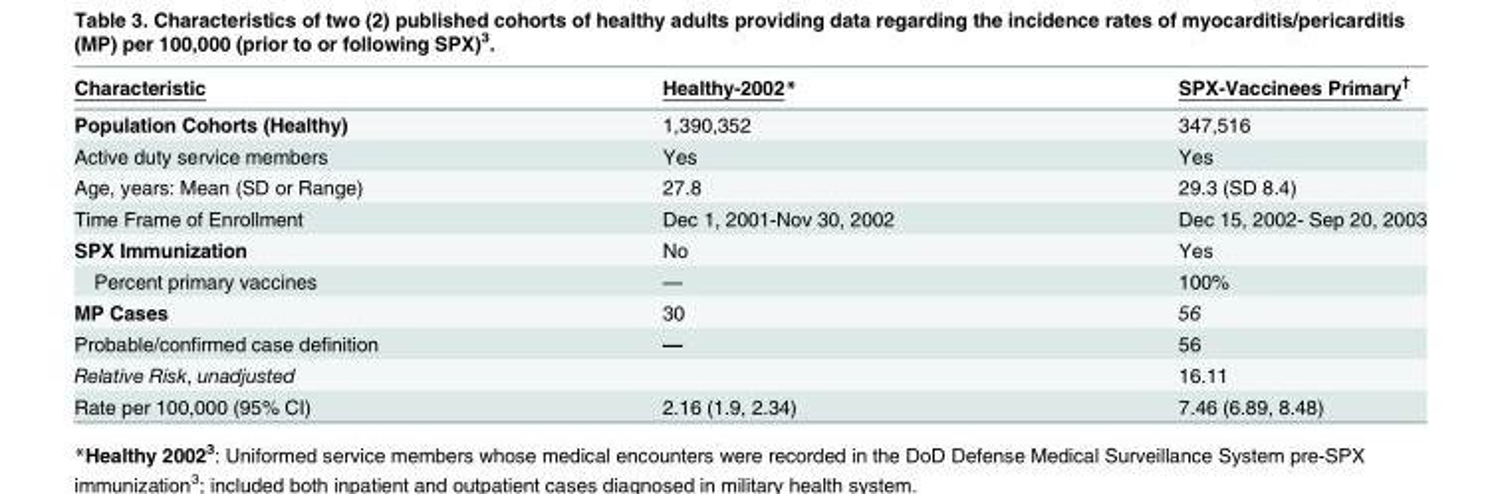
<table><thead><tr><td>Characteristic</td><td>Healthy-2002*</td><td>SPX-Vaccinees Primary<sup>†</sup></td></tr></thead><tbody><tr><td>Population Cohorts (Healthy)</td><td>1,390,352</td><td>347,516</td></tr><tr><td>Active duty service members</td><td>Yes</td><td>Yes</td></tr><tr><td>Age, years: Mean (SD or Range)</td><td>27.8</td><td>29.3 (SD 8.4)</td></tr><tr><td>Time Frame of Enrollment</td><td>Dec 1, 2001-Nov 30, 2002</td><td>Dec 15, 2002- Sep 20, 2003</td></tr><tr><td>SPX Immunization</td><td>No</td><td>Yes</td></tr><tr><td>Percent primary vaccines</td><td>—</td><td>100%</td></tr><tr><td>MP Cases</td><td>30</td><td>56</td></tr><tr><td>Probable/confirmed case definition</td><td>—</td><td>56</td></tr><tr><td>Relative Risk, unadjusted</td><td></td><td>16.11</td></tr><tr><td>Rate per 100,000 (95% CI)</td><td>2.16 (1.9, 2.34)</td><td>7.46 (6.89, 8.48)</td></tr></tbody></table>